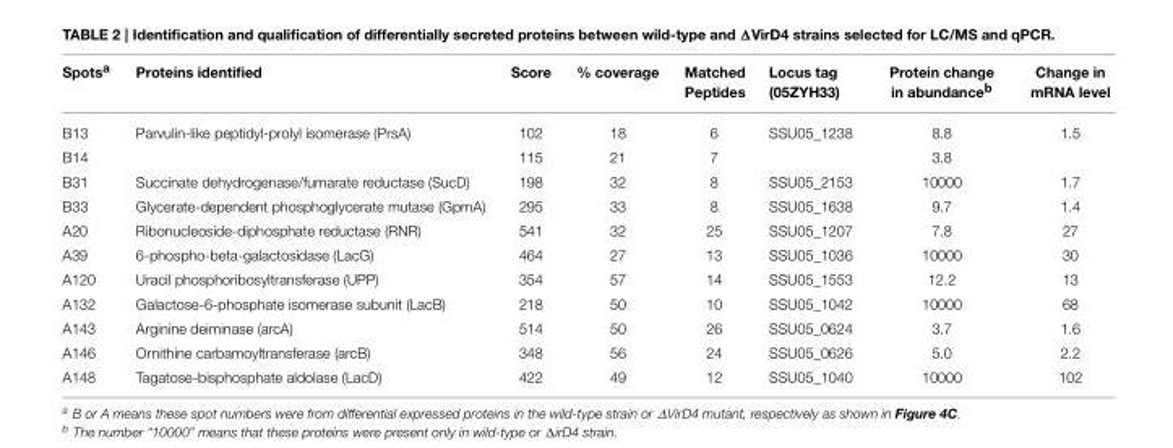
<table><thead><tr><td>Spots<sup>a</sup></td><td>Proteins identified</td><td>Score</td><td>% coverage</td><td>Matched Peptides</td><td>Locus tag (05ZYH33)</td><td>Protein change in abundance<sup>b</sup></td><td>Change in mRNA level</td></tr></thead><tbody><tr><td>B13</td><td>Parvulin-like peptidyl-prolyl isomerase (PrsA)</td><td>102</td><td>18</td><td>6</td><td>SSU05_1238</td><td>8.8</td><td>1.5</td></tr><tr><td>B14</td><td></td><td>115</td><td>21</td><td>7</td><td></td><td>3.8</td><td></td></tr><tr><td>B31</td><td>Succinate dehydrogenase/fumarate reductase (SucD)</td><td>198</td><td>32</td><td>8</td><td>SSU05_2153</td><td>10000</td><td>1.7</td></tr><tr><td>B33</td><td>Glycerate-dependent phosphoglycerate mutase (GpmA)</td><td>295</td><td>33</td><td>8</td><td>SSU05_1638</td><td>9.7</td><td>1.4</td></tr><tr><td>A20</td><td>Ribonucleoside-diphosphate reductase (RNR)</td><td>541</td><td>32</td><td>25</td><td>SSU05_1207</td><td>7.8</td><td>27</td></tr><tr><td>A39</td><td>6-phospho-beta-galactosidase (LacG)</td><td>464</td><td>27</td><td>13</td><td>SSU05_1036</td><td>10000</td><td>30</td></tr><tr><td>A120</td><td>Uracil phosphoribosyltransferase (UPP)</td><td>354</td><td>57</td><td>14</td><td>SSU05_1553</td><td>12.2</td><td>13</td></tr><tr><td>A132</td><td>Galactose-6-phosphate isomerase subunit (LacB)</td><td>218</td><td>50</td><td>10</td><td>SSU05_1042</td><td>10000</td><td>68</td></tr><tr><td>A143</td><td>Arginine deiminase (arcA)</td><td>514</td><td>50</td><td>26</td><td>SSU05_0624</td><td>3.7</td><td>1.6</td></tr><tr><td>A146</td><td>Ornithine carbamoyltransferase (arcB)</td><td>348</td><td>56</td><td>24</td><td>SSU05_0626</td><td>5.0</td><td>2.2</td></tr><tr><td>A148</td><td>Tagatose-bisphosphate aldolase (LacD)</td><td>422</td><td>49</td><td>12</td><td>SSU05_1040</td><td>10000</td><td>102</td></tr></tbody></table>